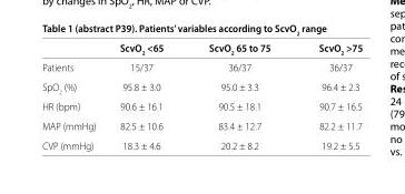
<table><thead><tr><td></td><td>ScvO<sub>2</sub> &lt;65</td><td>ScvO<sub>2</sub> 65 to 75</td><td>ScvO<sub>2</sub> &gt;75</td></tr></thead><tbody><tr><td>Patients</td><td>15/37</td><td>36/37</td><td>36/37</td></tr><tr><td>SpO<sub>2</sub> (%)</td><td>95.8 ± 3.0</td><td>95.0 ± 3.3</td><td>96.4 ± 2.3</td></tr><tr><td>HR (bpm)</td><td>90.6 ± 16.1</td><td>90.5 ± 18.1</td><td>90.7 ± 16.5</td></tr><tr><td>MAP (mmHg)</td><td>82.5 ± 10.6</td><td>83.4 ± 12.7</td><td>82.2 ± 11.7</td></tr><tr><td>CVP (mmHg)</td><td>18.3 ± 4.6</td><td>20.2 ± 8.2</td><td>19.2 ± 5.5</td></tr></tbody></table>